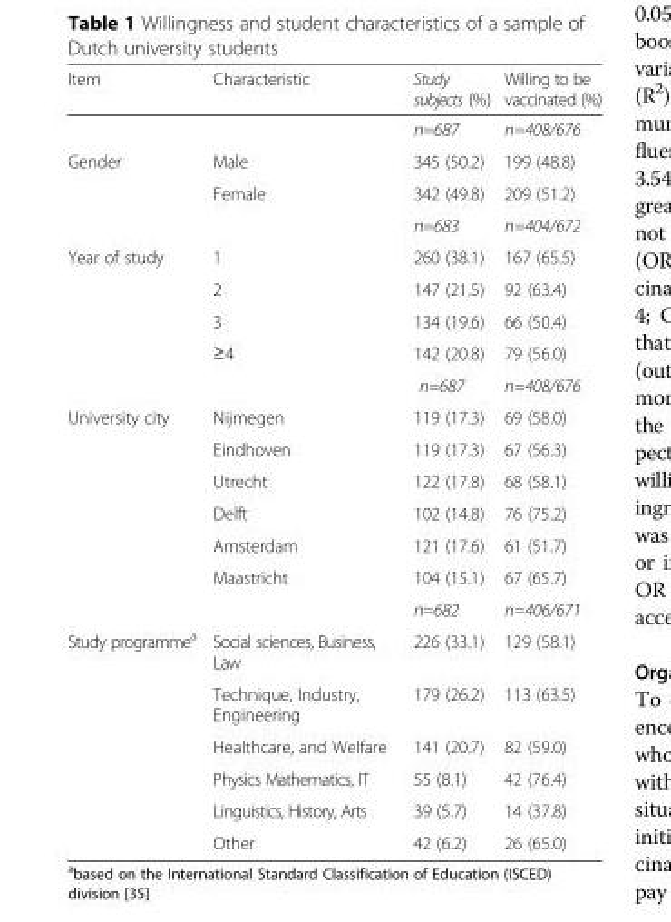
<table><thead><tr><td>Item</td><td>Characteristic</td><td>Study subjects (%)</td><td>Willing to be vaccinated (%)</td></tr></thead><tbody><tr><td colspan="2"></td><td>n=687</td><td>n=408/676</td></tr><tr><td rowspan="2">Gender</td><td>Male</td><td>345 (50.2)</td><td>199 (48.8)</td></tr><tr><td>Female</td><td>342 (49.8)</td><td>209 (51.2)</td></tr><tr><td colspan="2"></td><td>n=683</td><td>n=404/672</td></tr><tr><td rowspan="4">Year of study</td><td>1</td><td>260 (38.1)</td><td>167 (65.5)</td></tr><tr><td>2</td><td>147 (21.5)</td><td>92 (63.4)</td></tr><tr><td>3</td><td>134 (19.6)</td><td>66 (50.4)</td></tr><tr><td>≥4</td><td>142 (20.8)</td><td>79 (56.0)</td></tr><tr><td colspan="2"></td><td>n=687</td><td>n=408/676</td></tr><tr><td rowspan="6">University city</td><td>Nijmegen</td><td>119 (17.3)</td><td>69 (58.0)</td></tr><tr><td>Eindhoven</td><td>119 (17.3)</td><td>67 (56.3)</td></tr><tr><td>Utrecht</td><td>122 (17.8)</td><td>68 (58.1)</td></tr><tr><td>Delft</td><td>102 (14.8)</td><td>76 (75.2)</td></tr><tr><td>Amsterdam</td><td>121 (17.6)</td><td>61 (51.7)</td></tr><tr><td>Maastricht</td><td>104 (15.1)</td><td>67 (65.7)</td></tr><tr><td colspan="2"></td><td>n=682</td><td>n=406/671</td></tr><tr><td rowspan="6">Study programme<sup>a</sup></td><td>Social sciences, Business, Law</td><td>226 (33.1)</td><td>129 (58.1)</td></tr><tr><td>Technique, Industry, Engineering</td><td>179 (26.2)</td><td>113 (63.5)</td></tr><tr><td>Healthcare, and Welfare</td><td>141 (20.7)</td><td>82 (59.0)</td></tr><tr><td>Physics Mathematics, IT</td><td>55 (8.1)</td><td>42 (76.4)</td></tr><tr><td>Linguistics, History, Arts</td><td>39 (5.7)</td><td>14 (37.8)</td></tr><tr><td>Other</td><td>42 (6.2)</td><td>26 (65.0)</td></tr></tbody></table>